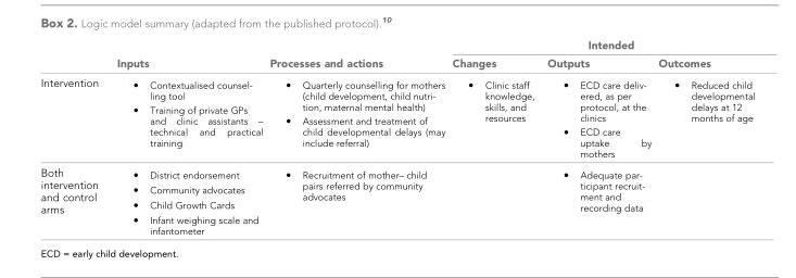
<table><thead><tr><td rowspan="2"></td><td rowspan="2">Inputs</td><td rowspan="2">Processes and actions</td><td colspan="3">Intended</td></tr><tr><td>Changes</td><td>Outputs</td><td>Outcomes</td></tr></thead><tbody><tr><td>Intervention</td><td>. Contextualised counsel- ling tool . Training of private GPs and clinic assistants – technical and practical training</td><td>. Quarterly counselling for mothers (child development, child nutri- tion, maternal mental health) . Assessment and treatment of child developmental delays (may include referral)</td><td>. Clinic staff knowledge, skills, and resources</td><td>. ECD care deliv- ered, as per protocol, at the clinics . ECD care uptake by mothers</td><td>. Reduced child developmental delays at 12 months of age</td></tr><tr><td>Both intervention and control arms</td><td>. District endorsement . Community advocates . Child Growth Cards . Infant weighing scale and infantometer</td><td>. Recruitment of mother– child pairs referred by community advocates</td><td></td><td>. Adequate par- ticipant recruit- ment and recording data</td><td></td></tr></tbody></table>